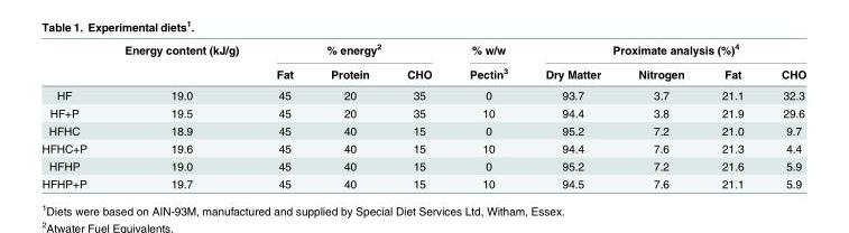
<table><thead><tr><td rowspan="2"></td><td rowspan="2">Energy content (kJ/g)</td><td colspan="3">% energy<sup>2</sup></td><td rowspan="2">% w/w Pectin<sup>3</sup></td><td colspan="4">Proximate analysis (%)<sup>4</sup></td></tr><tr><td>Fat</td><td>Protein</td><td>CHO</td><td>Dry Matter</td><td>Nitrogen</td><td>Fat</td><td>CHO</td></tr></thead><tbody><tr><td>HF</td><td>19.0</td><td>45</td><td>20</td><td>35</td><td>0</td><td>93.7</td><td>3.7</td><td>21.1</td><td>32.3</td></tr><tr><td>HF+P</td><td>19.5</td><td>45</td><td>20</td><td>35</td><td>10</td><td>94.4</td><td>3.8</td><td>21.9</td><td>29.6</td></tr><tr><td>HFHC</td><td>18.9</td><td>45</td><td>40</td><td>15</td><td>0</td><td>95.2</td><td>7.2</td><td>21.0</td><td>9.7</td></tr><tr><td>HFHC+P</td><td>19.6</td><td>45</td><td>40</td><td>15</td><td>10</td><td>94.4</td><td>7.6</td><td>21.3</td><td>4.4</td></tr><tr><td>HFHP</td><td>19.0</td><td>45</td><td>40</td><td>15</td><td>0</td><td>95.2</td><td>7.2</td><td>21.6</td><td>5.9</td></tr><tr><td>HFHP+P</td><td>19.7</td><td>45</td><td>40</td><td>15</td><td>10</td><td>94.5</td><td>7.6</td><td>21.1</td><td>5.9</td></tr></tbody></table>